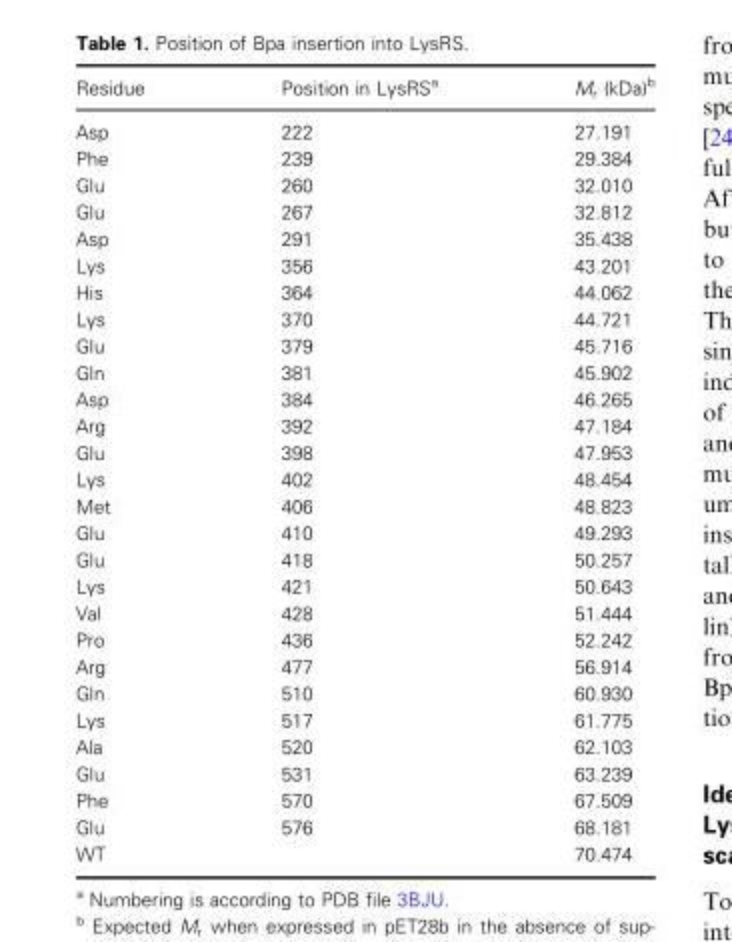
<table><thead><tr><td>Residue</td><td>Position in LysRS<sup>a</sup></td><td>M<sub>r</sub> (kDa)<sup>b</sup></td></tr></thead><tbody><tr><td>Asp</td><td>222</td><td>27.191</td></tr><tr><td>Phe</td><td>239</td><td>29.384</td></tr><tr><td>Glu</td><td>260</td><td>32.010</td></tr><tr><td>Glu</td><td>267</td><td>32.812</td></tr><tr><td>Asp</td><td>291</td><td>35.438</td></tr><tr><td>Lys</td><td>356</td><td>43.201</td></tr><tr><td>His</td><td>364</td><td>44.062</td></tr><tr><td>Lys</td><td>370</td><td>44.721</td></tr><tr><td>Glu</td><td>379</td><td>45.716</td></tr><tr><td>Gln</td><td>381</td><td>45.902</td></tr><tr><td>Asp</td><td>384</td><td>46.265</td></tr><tr><td>Arg</td><td>392</td><td>47.184</td></tr><tr><td>Glu</td><td>398</td><td>47.953</td></tr><tr><td>Lys</td><td>402</td><td>48.454</td></tr><tr><td>Met</td><td>406</td><td>48.823</td></tr><tr><td>Glu</td><td>410</td><td>49.293</td></tr><tr><td>Glu</td><td>418</td><td>50.257</td></tr><tr><td>Lys</td><td>421</td><td>50.643</td></tr><tr><td>Val</td><td>428</td><td>51.444</td></tr><tr><td>Pro</td><td>436</td><td>52.242</td></tr><tr><td>Arg</td><td>477</td><td>56.914</td></tr><tr><td>Gln</td><td>510</td><td>60.930</td></tr><tr><td>Lys</td><td>517</td><td>61.775</td></tr><tr><td>Ala</td><td>520</td><td>62.103</td></tr><tr><td>Glu</td><td>531</td><td>63.239</td></tr><tr><td>Phe</td><td>570</td><td>67.509</td></tr><tr><td>Glu</td><td>576</td><td>68.181</td></tr><tr><td>WT</td><td></td><td>70.474</td></tr></tbody></table>